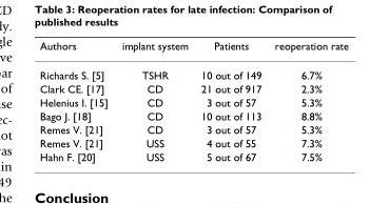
<table><thead><tr><td>Authors</td><td>implant system</td><td>Patients</td><td>reoperation rate</td></tr></thead><tbody><tr><td>Richards S. [5]</td><td>TSHR</td><td>10 out of 149</td><td>6.7%</td></tr><tr><td>Clark CE. [17]</td><td>CD</td><td>21 out of 917</td><td>2.3%</td></tr><tr><td>Helenius I. [15]</td><td>CD</td><td>3 out of 57</td><td>5.3%</td></tr><tr><td>Bago J. [18]</td><td>CD</td><td>10 out of 113</td><td>8.8%</td></tr><tr><td>Remes V. [21]</td><td>CD</td><td>3 out of 57</td><td>5.3%</td></tr><tr><td>Remes V. [21]</td><td>USS</td><td>4 out of 55</td><td>7.3%</td></tr><tr><td>Hahn F. [20]</td><td>USS</td><td>5 out of 67</td><td>7.5%</td></tr></tbody></table>